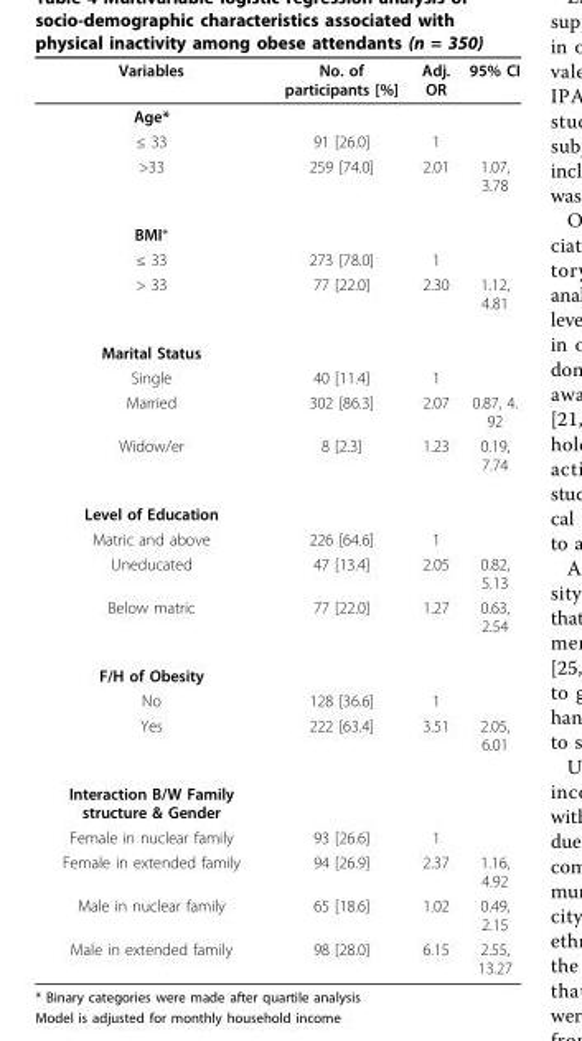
<table><thead><tr><td>Variables</td><td>No. of participants [%]</td><td>Adj. OR</td><td>95% CI</td></tr></thead><tbody><tr><td colspan="4">Age*</td></tr><tr><td>≤ 33</td><td>91 [26.0]</td><td>1</td><td></td></tr><tr><td>&gt;33</td><td>259 [74.0]</td><td>2.01</td><td>1.07, 3.78</td></tr><tr><td colspan="4">BMI*</td></tr><tr><td>≤ 33</td><td>273 [78.0]</td><td>1</td><td></td></tr><tr><td>&gt; 33</td><td>77 [22.0]</td><td>2.30</td><td>1.12, 4.81</td></tr><tr><td colspan="4">Marital Status</td></tr><tr><td>Single</td><td>40 [11.4]</td><td>1</td><td></td></tr><tr><td>Married</td><td>302 [86.3]</td><td>2.07</td><td>0.87, 4. 92</td></tr><tr><td>Widow/er</td><td>8 [2.3]</td><td>1.23</td><td>0.19, 7.74</td></tr><tr><td colspan="4">Level of Education</td></tr><tr><td>Matric and above</td><td>226 [64.6]</td><td>1</td><td></td></tr><tr><td>Uneducated</td><td>47 [13.4]</td><td>2.05</td><td>0.82, 5.13</td></tr><tr><td>Below matric</td><td>77 [22.0]</td><td>1.27</td><td>0.63, 2.54</td></tr><tr><td colspan="4">F/H of Obesity</td></tr><tr><td>No</td><td>128 [36.6]</td><td>1</td><td></td></tr><tr><td>Yes</td><td>222 [63.4]</td><td>3.51</td><td>2.05, 6.01</td></tr><tr><td colspan="4">Interaction B/W Family structure &amp; Gender</td></tr><tr><td>Female in nuclear family</td><td>93 [26.6]</td><td>1</td><td></td></tr><tr><td>Female in extended family</td><td>94 [26.9]</td><td>2.37</td><td>1.16, 4.92</td></tr><tr><td>Male in nuclear family</td><td>65 [18.6]</td><td>1.02</td><td>0.49, 2.15</td></tr><tr><td>Male in extended family</td><td>98 [28.0]</td><td>6.15</td><td>2.55, 13.27</td></tr></tbody></table>